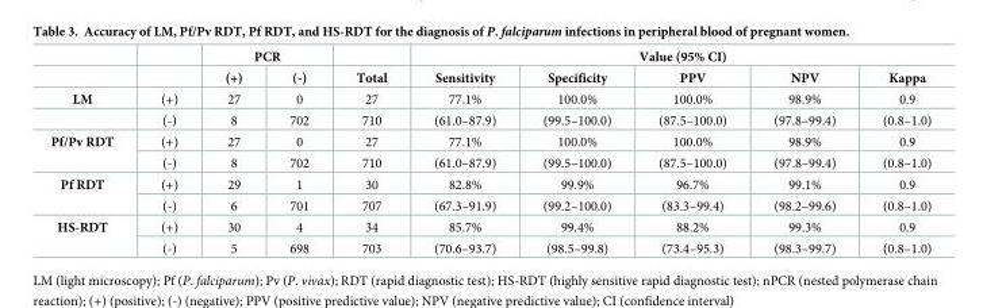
<table><thead><tr><td rowspan="2"></td><td rowspan="2"></td><td colspan="2">PCR</td><td rowspan="2">Total</td><td colspan="5">Value (95% CI)</td></tr><tr><td>(+)</td><td>(-)</td><td>Sensitivity</td><td>Specificity</td><td>PPV</td><td>NPV</td><td>Kappa</td></tr></thead><tbody><tr><td rowspan="2">LM</td><td>(+)</td><td>27</td><td>0</td><td>27</td><td>77.1%</td><td>100.0%</td><td>100.0%</td><td>98.9%</td><td>0.9</td></tr><tr><td>(-)</td><td>8</td><td>702</td><td>710</td><td>(61.0–87.9)</td><td>(99.5–100.0)</td><td>(87.5–100.0)</td><td>(97.8–99.4)</td><td>(0.8–1.0)</td></tr><tr><td rowspan="2">Pf/Pv RDT</td><td>(+)</td><td>27</td><td>0</td><td>27</td><td>77.1%</td><td>100.0%</td><td>100.0%</td><td>98.9%</td><td>0.9</td></tr><tr><td>(-)</td><td>8</td><td>702</td><td>710</td><td>(61.0–87.9)</td><td>(99.5–100.0)</td><td>(87.5–100.0)</td><td>(97.8–99.4)</td><td>(0.8–1.0)</td></tr><tr><td rowspan="2">Pf RDT</td><td>(+)</td><td>29</td><td>1</td><td>30</td><td>82.8%</td><td>99.9%</td><td>96.7%</td><td>99.1%</td><td>0.9</td></tr><tr><td>(-)</td><td>6</td><td>701</td><td>707</td><td>(67.3–91.9)</td><td>(99.2–100.0)</td><td>(83.3–99.4)</td><td>(98.2–99.6)</td><td>(0.8–1.0)</td></tr><tr><td rowspan="2">HS-RDT</td><td>(+)</td><td>30</td><td>4</td><td>34</td><td>85.7%</td><td>99.4%</td><td>88.2%</td><td>99.3%</td><td>0.9</td></tr><tr><td>(-)</td><td>5</td><td>698</td><td>703</td><td>(70.6–93.7)</td><td>(98.5–99.8)</td><td>(73.4–95.3)</td><td>(98.3–99.7)</td><td>(0.8–1.0)</td></tr></tbody></table>